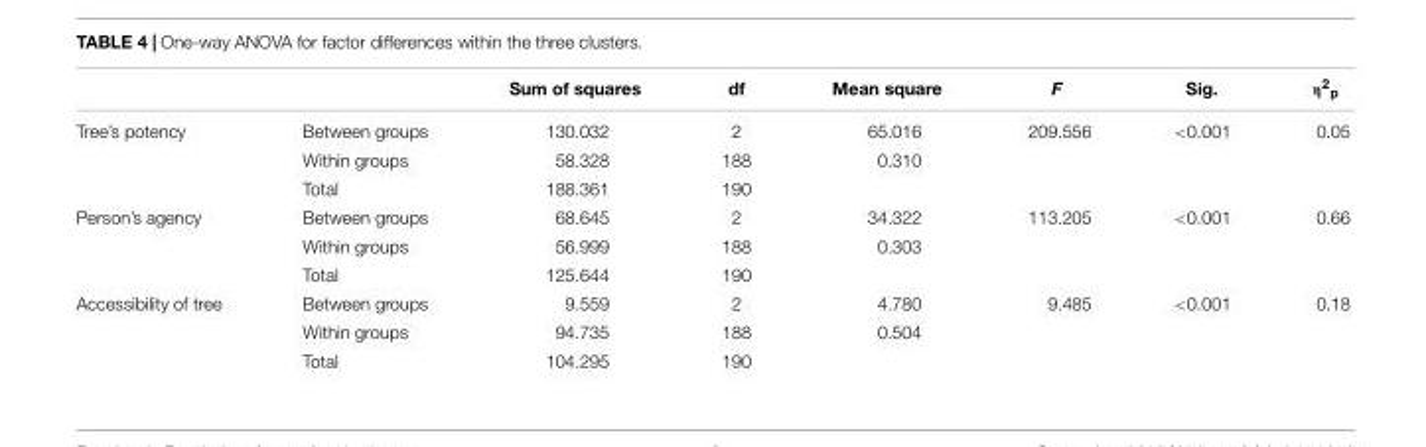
<table><thead><tr><td></td><td></td><td>Sum of squares</td><td>df</td><td>Mean square</td><td>F</td><td>Sig.</td><td>η<sup>2</sup><sub>p</sub></td></tr></thead><tbody><tr><td rowspan="3">Tree’s potency</td><td>Between groups</td><td>130.032</td><td>2</td><td>65.016</td><td>209.556</td><td>&lt;0.001</td><td>0.05</td></tr><tr><td>Within groups</td><td>58.328</td><td>188</td><td>0.310</td><td></td><td></td><td></td></tr><tr><td>Total</td><td>188.361</td><td>190</td><td></td><td></td><td></td><td></td></tr><tr><td rowspan="3">Person’s agency</td><td>Between groups</td><td>68.645</td><td>2</td><td>34.322</td><td>113.205</td><td>&lt;0.001</td><td>0.66</td></tr><tr><td>Within groups</td><td>56.999</td><td>188</td><td>0.303</td><td></td><td></td><td></td></tr><tr><td>Total</td><td>125.644</td><td>190</td><td></td><td></td><td></td><td></td></tr><tr><td rowspan="3">Accessibility of tree</td><td>Between groups</td><td>9.559</td><td>2</td><td>4.780</td><td>9.485</td><td>&lt;0.001</td><td>0.18</td></tr><tr><td>Within groups</td><td>94.735</td><td>188</td><td>0.504</td><td></td><td></td><td></td></tr><tr><td>Total</td><td>104.295</td><td>190</td><td></td><td></td><td></td><td></td></tr></tbody></table>